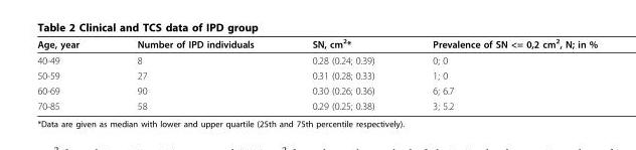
<table><thead><tr><td>Age, year</td><td>Number of IPD individuals</td><td>SN, cm<sup>2</sup>*</td><td>Prevalence of SN &lt;= 0,2 cm<sup>2</sup>, N; in %</td></tr></thead><tbody><tr><td>40-49</td><td>8</td><td>0.28 (0.24; 0.39)</td><td>0; 0</td></tr><tr><td>50-59</td><td>27</td><td>0.31 (0.28; 0.33)</td><td>1; 0</td></tr><tr><td>60-69</td><td>90</td><td>0.30 (0.26; 0.36)</td><td>6; 6.7</td></tr><tr><td>70-85</td><td>58</td><td>0.29 (0.25; 0.38)</td><td>3; 5.2</td></tr></tbody></table>